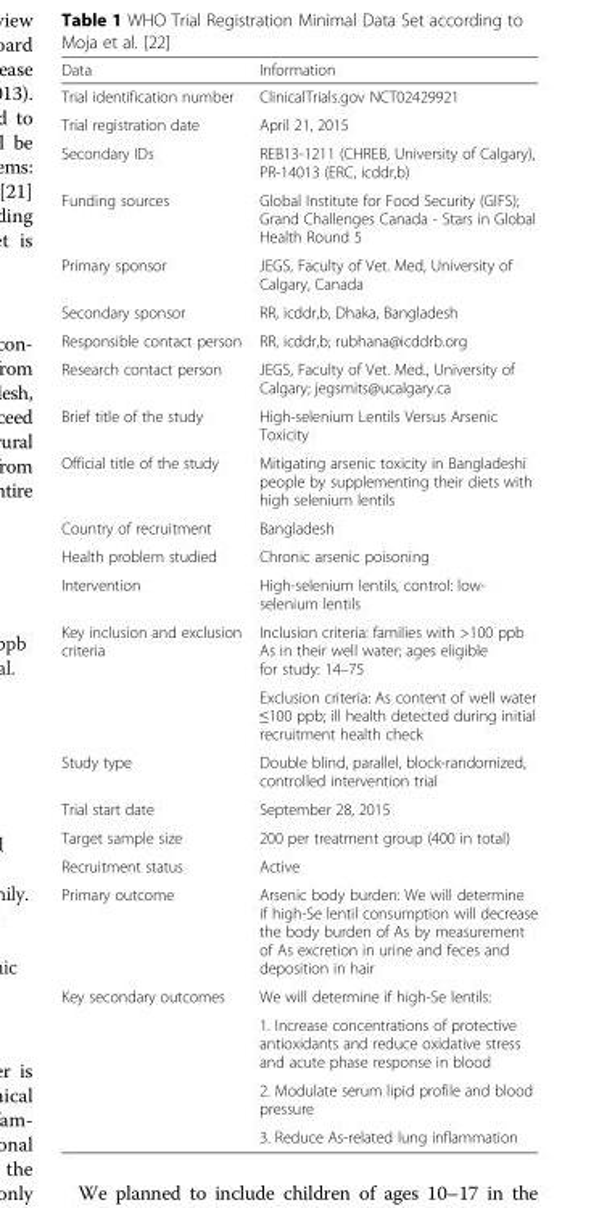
<table><thead><tr><td>Data</td><td>Information</td></tr></thead><tbody><tr><td>Trial identification number</td><td>ClinicalTrials.gov NCT02429921</td></tr><tr><td>Trial registration date</td><td>April 21, 2015</td></tr><tr><td>Secondary IDs</td><td>REB13-1211 (CHREB, University of Calgary), PR-14013 (ERC, icddr,b)</td></tr><tr><td>Funding sources</td><td>Global Institute for Food Security (GIFS); Grand Challenges Canada - Stars in Global Health Round 5</td></tr><tr><td>Primary sponsor</td><td>JEGS, Faculty of Vet. Med, University of Calgary, Canada</td></tr><tr><td>Secondary sponsor</td><td>RR, icddr,b, Dhaka, Bangladesh</td></tr><tr><td>Responsible contact person</td><td>RR, icddr,b; rubhana@icddrb.org</td></tr><tr><td>Research contact person</td><td>JEGS, Faculty of Vet. Med., University of Calgary; jegsmits@ucalgary.ca</td></tr><tr><td>Brief title of the study</td><td>High-selenium Lentils Versus Arsenic Toxicity</td></tr><tr><td>Official title of the study</td><td>Mitigating arsenic toxicity in Bangladeshi people by supplementing their diets with high selenium lentils</td></tr><tr><td>Country of recruitment</td><td>Bangladesh</td></tr><tr><td>Health problem studied</td><td>Chronic arsenic poisoning</td></tr><tr><td>Intervention</td><td>High-selenium lentils, control: low- selenium lentils</td></tr><tr><td rowspan="2">Key inclusion and exclusion criteria</td><td>Inclusion criteria: families with &gt;100 ppb As in their well water; ages eligible for study: 14–75</td></tr><tr><td>Exclusion criteria: As content of well water ≤100 ppb; ill health detected during initial recruitment health check</td></tr><tr><td>Study type</td><td>Double blind, parallel, block-randomized, controlled intervention trial</td></tr><tr><td>Trial start date</td><td>September 28, 2015</td></tr><tr><td>Target sample size</td><td>200 per treatment group (400 in total)</td></tr><tr><td>Recruitment status</td><td>Active</td></tr><tr><td>Primary outcome</td><td>Arsenic body burden: We will determine if high-Se lentil consumption will decrease the body burden of As by measurement of As excretion in urine and feces and deposition in hair</td></tr><tr><td rowspan="4">Key secondary outcomes</td><td>We will determine if high-Se lentils:</td></tr><tr><td>1. Increase concentrations of protective antioxidants and reduce oxidative stress and acute phase response in blood</td></tr><tr><td>2. Modulate serum lipid profile and blood pressure</td></tr><tr><td>3. Reduce As-related lung inflammation</td></tr></tbody></table>